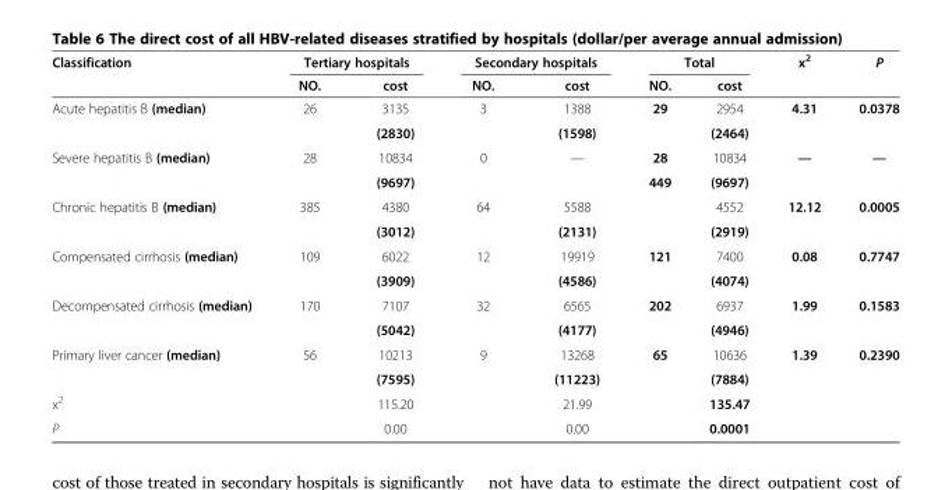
<table><thead><tr><td rowspan="2">Classification</td><td colspan="2">Tertiary hospitals</td><td colspan="2">Secondary hospitals</td><td colspan="2">Total</td><td rowspan="2">x<sup>2</sup></td><td rowspan="2">P</td></tr><tr><td>NO.</td><td>cost</td><td>NO.</td><td>cost</td><td>NO.</td><td>cost</td></tr></thead><tbody><tr><td rowspan="2">Acute hepatitis B (median)</td><td rowspan="2">26</td><td>3135</td><td rowspan="2">3</td><td>1388</td><td rowspan="2">29</td><td>2954</td><td rowspan="2">4.31</td><td rowspan="2">0.0378</td></tr><tr><td>(2830)</td><td>(1598)</td><td>(2464)</td></tr><tr><td rowspan="2">Severe hepatitis B (median)</td><td rowspan="2">28</td><td>10834</td><td>0</td><td>—</td><td>28</td><td>10834</td><td rowspan="2">—</td><td rowspan="2">—</td></tr><tr><td>(9697)</td><td></td><td></td><td rowspan="2">449</td><td>(9697)</td></tr><tr><td rowspan="2">Chronic hepatitis B (median)</td><td rowspan="2">385</td><td>4380</td><td>64</td><td>5588</td><td>4552</td><td rowspan="2">12.12</td><td rowspan="2">0.0005</td></tr><tr><td>(3012)</td><td></td><td>(2131)</td><td></td><td>(2919)</td></tr><tr><td rowspan="2">Compensated cirrhosis (median)</td><td rowspan="2">109</td><td>6022</td><td>12</td><td>19919</td><td>121</td><td>7400</td><td>0.08</td><td rowspan="2">0.7747</td></tr><tr><td>(3909)</td><td></td><td>(4586)</td><td></td><td>(4074)</td><td></td></tr><tr><td rowspan="2">Decompensated cirrhosis (median)</td><td rowspan="2">170</td><td>7107</td><td rowspan="2">32</td><td>6565</td><td rowspan="2">202</td><td>6937</td><td rowspan="2">1.99</td><td rowspan="2">0.1583</td></tr><tr><td>(5042)</td><td>(4177)</td><td>(4946)</td></tr><tr><td rowspan="2">Primary liver cancer (median)</td><td rowspan="2">56</td><td>10213</td><td>9</td><td>13268</td><td>65</td><td>10636</td><td rowspan="2">1.39</td><td rowspan="2">0.2390</td></tr><tr><td>(7595)</td><td></td><td>(11223)</td><td></td><td>(7884)</td></tr><tr><td>x<sup>2</sup></td><td></td><td>115.20</td><td></td><td>21.99</td><td></td><td>135.47</td><td></td><td></td></tr><tr><td>P</td><td></td><td>0.00</td><td></td><td>0.00</td><td></td><td>0.0001</td><td></td><td></td></tr></tbody></table>